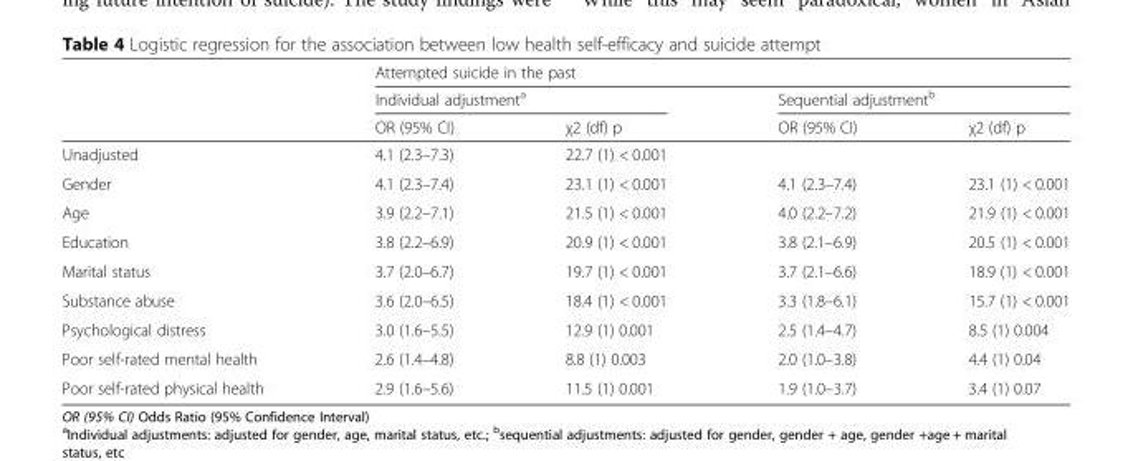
<table><thead><tr><td rowspan="3"></td><td colspan="4">Attempted suicide in the past</td></tr><tr><td colspan="2">Individual adjustment<sup>a</sup></td><td colspan="2">Sequential adjustment<sup>b</sup></td></tr><tr><td>OR (95% CI)</td><td>χ2 (df) p</td><td>OR (95% CI)</td><td>χ2 (df) p</td></tr></thead><tbody><tr><td>Unadjusted</td><td>4.1 (2.3–7.3)</td><td>22.7 (1) &lt; 0.001</td><td></td><td></td></tr><tr><td>Gender</td><td>4.1 (2.3–7.4)</td><td>23.1 (1) &lt; 0.001</td><td>4.1 (2.3–7.4)</td><td>23.1 (1) &lt; 0.001</td></tr><tr><td>Age</td><td>3.9 (2.2–7.1)</td><td>21.5 (1) &lt; 0.001</td><td>4.0 (2.2–7.2)</td><td>21.9 (1) &lt; 0.001</td></tr><tr><td>Education</td><td>3.8 (2.2–6.9)</td><td>20.9 (1) &lt; 0.001</td><td>3.8 (2.1–6.9)</td><td>20.5 (1) &lt; 0.001</td></tr><tr><td>Marital status</td><td>3.7 (2.0–6.7)</td><td>19.7 (1) &lt; 0.001</td><td>3.7 (2.1–6.6)</td><td>18.9 (1) &lt; 0.001</td></tr><tr><td>Substance abuse</td><td>3.6 (2.0–6.5)</td><td>18.4 (1) &lt; 0.001</td><td>3.3 (1.8–6.1)</td><td>15.7 (1) &lt; 0.001</td></tr><tr><td>Psychological distress</td><td>3.0 (1.6–5.5)</td><td>12.9 (1) 0.001</td><td>2.5 (1.4–4.7)</td><td>8.5 (1) 0.004</td></tr><tr><td>Poor self-rated mental health</td><td>2.6 (1.4–4.8)</td><td>8.8 (1) 0.003</td><td>2.0 (1.0–3.8)</td><td>4.4 (1) 0.04</td></tr><tr><td>Poor self-rated physical health</td><td>2.9 (1.6–5.6)</td><td>11.5 (1) 0.001</td><td>1.9 (1.0–3.7)</td><td>3.4 (1) 0.07</td></tr></tbody></table>